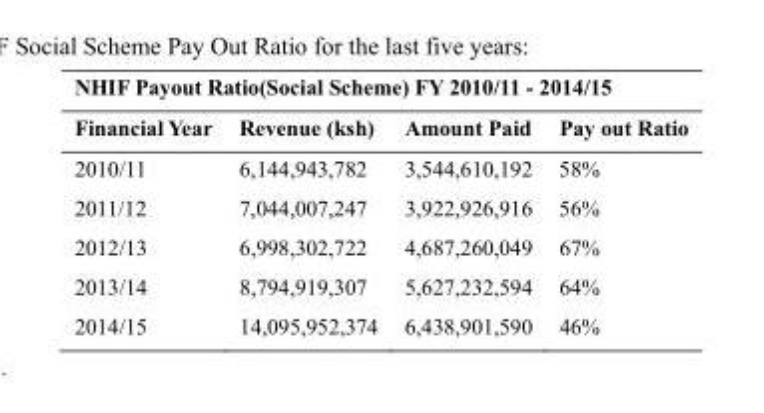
<table><thead><tr><td colspan="4">NHIF Payout Ratio(Social Scheme) FY 2010/11 - 2014/15</td></tr><tr><td>Financial Year</td><td>Revenue (ksh)</td><td>Amount Paid</td><td>Pay out Ratio</td></tr></thead><tbody><tr><td>2010/11</td><td>6,144,943,782</td><td>3,544,610,192</td><td>58%</td></tr><tr><td>2011/12</td><td>7,044,007,247</td><td>3,922,926,916</td><td>56%</td></tr><tr><td>2012/13</td><td>6,998,302,722</td><td>4,687,260,049</td><td>67%</td></tr><tr><td>2013/14</td><td>8,794,919,307</td><td>5,627,232,594</td><td>64%</td></tr><tr><td>2014/15</td><td>14,095,952,374</td><td>6,438,901,590</td><td>46%</td></tr></tbody></table>